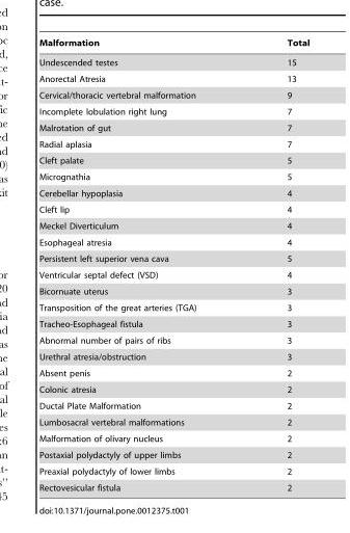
<table><thead><tr><td>Malformation</td><td>Total</td></tr></thead><tbody><tr><td>Undescended testes</td><td>15</td></tr><tr><td>Anorectal Atresia</td><td>13</td></tr><tr><td>Cervical/thoracic vertebral malformation</td><td>9</td></tr><tr><td>Incomplete lobulation right lung</td><td>7</td></tr><tr><td>Malrotation of gut</td><td>7</td></tr><tr><td>Radial aplasia</td><td>7</td></tr><tr><td>Cleft palate</td><td>5</td></tr><tr><td>Micrognathia</td><td>5</td></tr><tr><td>Cerebellar hypoplasia</td><td>4</td></tr><tr><td>Cleft lip</td><td>4</td></tr><tr><td>Meckel Diverticulum</td><td>4</td></tr><tr><td>Esophageal atresia</td><td>4</td></tr><tr><td>Persistent left superior vena cava</td><td>5</td></tr><tr><td>Ventricular septal defect (VSD)</td><td>4</td></tr><tr><td>Bicornuate uterus</td><td>3</td></tr><tr><td>Transposition of the great arteries (TGA)</td><td>3</td></tr><tr><td>Tracheo-Esophageal fistula</td><td>3</td></tr><tr><td>Abnormal number of pairs of ribs</td><td>3</td></tr><tr><td>Urethral atresia/obstruction</td><td>3</td></tr><tr><td>Absent penis</td><td>2</td></tr><tr><td>Colonic atresia</td><td>2</td></tr><tr><td>Ductal Plate Malformation</td><td>2</td></tr><tr><td>Lumbosacral vertebral malformations</td><td>2</td></tr><tr><td>Malformation of olivary nucleus</td><td>2</td></tr><tr><td>Postaxial polydactyly of upper limbs</td><td>2</td></tr><tr><td>Preaxial polydactyly of lower limbs</td><td>2</td></tr><tr><td>Rectovesicular fistula</td><td>2</td></tr></tbody></table>